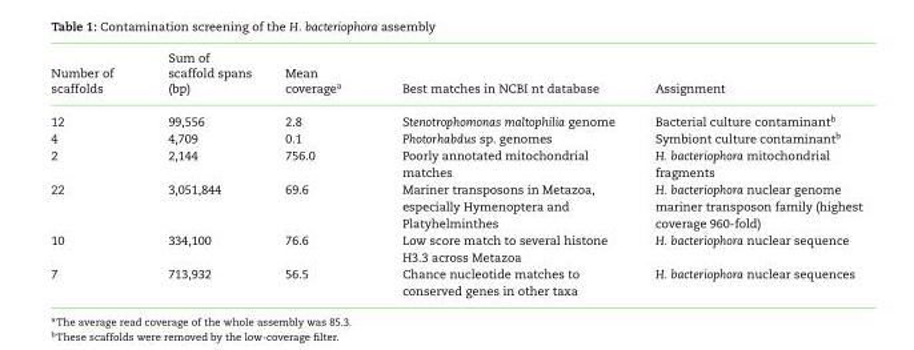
<table><thead><tr><td>Number of scaffolds</td><td>Sum of scaffold spans (bp)</td><td>Mean coverage<sup>a</sup></td><td>Best matches in NCBI nt database</td><td>Assignment</td></tr></thead><tbody><tr><td>12</td><td>99,556</td><td>2.8</td><td>Stenotrophomonas maltophilia genome</td><td>Bacterial culture contaminant<sup>b</sup></td></tr><tr><td>4</td><td>4,709</td><td>0.1</td><td>Photorhabdus sp. genomes</td><td>Symbiont culture contaminant<sup>b</sup></td></tr><tr><td>2</td><td>2,144</td><td>756.0</td><td>Poorly annotated mitochondrial matches</td><td>H. bacteriophora mitochondrial fragments</td></tr><tr><td>22</td><td>3,051,844</td><td>69.6</td><td>Mariner transposons in Metazoa, especially Hymenoptera and Platyhelminthes</td><td>H. bacteriophora nuclear genome mariner transposon family (highest coverage 960-fold)</td></tr><tr><td>10</td><td>334,100</td><td>76.6</td><td>Low score match to several histone H3.3 across Metazoa</td><td>H. bacteriophora nuclear sequence</td></tr><tr><td>7</td><td>713,932</td><td>56.5</td><td>Chance nucleotide matches to conserved genes in other taxa</td><td>H. bacteriophora nuclear sequences</td></tr></tbody></table>